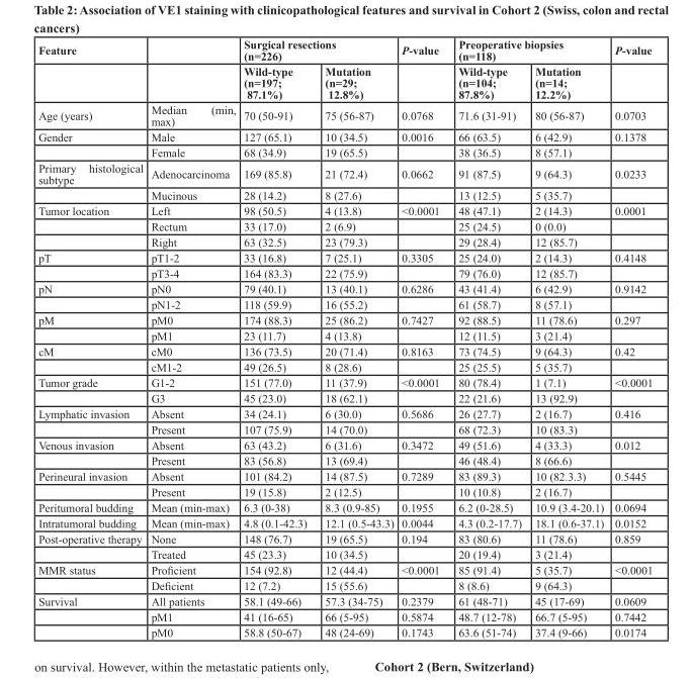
<table><thead><tr><td rowspan="2">Feature</td><td rowspan="2"></td><td colspan="2">Surgical resections (n=226)</td><td rowspan="2">P-value</td><td colspan="2">Preoperative biopsies (n=118)</td><td rowspan="2">P-value</td></tr><tr><td>Wild-type (n=197; 87.1%)</td><td>Mutation (n=29; 12.8%)</td><td>Wild-type (n=104; 87.8%)</td><td>Mutation (n=14; 12.2%)</td></tr></thead><tbody><tr><td>Age (years)</td><td>Median (min, max)</td><td>70 (50-91)</td><td>75 (56-87)</td><td>0.0768</td><td>71.6 (31-91)</td><td>80 (56-87)</td><td>0.0703</td></tr><tr><td rowspan="2">Gender</td><td>Male</td><td>127 (65.1)</td><td>10 (34.5)</td><td>0.0016</td><td>66 (63.5)</td><td>6 (42.9)</td><td>0.1378</td></tr><tr><td>Female</td><td>68 (34.9)</td><td>19 (65.5)</td><td></td><td>38 (36.5)</td><td>8 (57.1)</td><td></td></tr><tr><td rowspan="2">Primary histological subtype</td><td>Adenocarcinoma</td><td>169 (85.8)</td><td>21 (72.4)</td><td>0.0662</td><td>91 (87.5)</td><td>9 (64.3)</td><td>0.0233</td></tr><tr><td>Mucinous</td><td>28 (14.2)</td><td>8 (27.6)</td><td></td><td>13 (12.5)</td><td>5 (35.7)</td><td></td></tr><tr><td rowspan="3">Tumor location</td><td>Left</td><td>98 (50.5)</td><td>4 (13.8)</td><td>&lt;0.0001</td><td>48 (47.1)</td><td>2 (14.3)</td><td>0.0001</td></tr><tr><td>Rectum</td><td>33 (17.0)</td><td>2 (6.9)</td><td></td><td>25 (24.5)</td><td>0 (0.0)</td><td></td></tr><tr><td>Right</td><td>63 (32.5)</td><td>23 (79.3)</td><td></td><td>29 (28.4)</td><td>12 (85.7)</td><td></td></tr><tr><td rowspan="2">pT</td><td>pT1-2</td><td>33 (16.8)</td><td>7 (25.1)</td><td>0.3305</td><td>25 (24.0)</td><td>2 (14.3)</td><td>0.4148</td></tr><tr><td>pT3-4</td><td>164 (83.3)</td><td>22 (75.9)</td><td></td><td>79 (76.0)</td><td>12 (85.7)</td><td></td></tr><tr><td rowspan="2">pN</td><td>pN0</td><td>79 (40.1)</td><td>13 (40.1)</td><td>0.6286</td><td>43 (41.4)</td><td>6 (42.9)</td><td>0.9142</td></tr><tr><td>pN1-2</td><td>118 (59.9)</td><td>16 (55.2)</td><td></td><td>61 (58.7)</td><td>8 (57.1)</td><td></td></tr><tr><td rowspan="2">pM</td><td>pM0</td><td>174 (88.3)</td><td>25 (86.2)</td><td>0.7427</td><td>92 (88.5)</td><td>11 (78.6)</td><td>0.297</td></tr><tr><td>pM1</td><td>23 (11.7)</td><td>4 (13.8)</td><td></td><td>12 (11.5)</td><td>3 (21.4)</td><td></td></tr><tr><td rowspan="2">cM</td><td>cM0</td><td>136 (73.5)</td><td>20 (71.4)</td><td>0.8163</td><td>73 (74.5)</td><td>9 (64.3)</td><td>0.42</td></tr><tr><td>cM1-2</td><td>49 (26.5)</td><td>8 (28.6)</td><td></td><td>25 (25.5)</td><td>5 (35.7)</td><td></td></tr><tr><td rowspan="2">Tumor grade</td><td>G1-2</td><td>151 (77.0)</td><td>11 (37.9)</td><td>&lt;0.0001</td><td>80 (78.4)</td><td>1 (7.1)</td><td>&lt;0.0001</td></tr><tr><td>G3</td><td>45 (23.0)</td><td>18 (62.1)</td><td></td><td>22 (21.6)</td><td>13 (92.9)</td><td></td></tr><tr><td rowspan="2">Lymphatic invasion</td><td>Absent</td><td>34 (24.1)</td><td>6 (30.0)</td><td>0.5686</td><td>26 (27.7)</td><td>2 (16.7)</td><td>0.416</td></tr><tr><td>Present</td><td>107 (75.9)</td><td>14 (70.0)</td><td></td><td>68 (72.3)</td><td>10 (83.3)</td><td></td></tr><tr><td rowspan="2">Venous invasion</td><td>Absent</td><td>63 (43.2)</td><td>6 (31.6)</td><td>0.3472</td><td>49 (51.6)</td><td>4 (33.3)</td><td>0.012</td></tr><tr><td>Present</td><td>83 (56.8)</td><td>13 (69.4)</td><td></td><td>46 (48.4)</td><td>8 (66.6)</td><td></td></tr><tr><td rowspan="2">Perineural invasion</td><td>Absent</td><td>101 (84.2)</td><td>14 (87.5)</td><td>0.7289</td><td>83 (89.3)</td><td>10 (82.3.3)</td><td>0.5445</td></tr><tr><td>Present</td><td>19 (15.8)</td><td>2 (12.5)</td><td></td><td>10 (10.8)</td><td>2 (16.7)</td><td></td></tr><tr><td>Peritumoral budding</td><td>Mean (min-max)</td><td>6.3 (0-38)</td><td>8.3 (0.9-85)</td><td>0.1955</td><td>6.2 (0-28.5)</td><td>10.9 (3.4-20.1)</td><td>0.0694</td></tr><tr><td>Intratumoral budding</td><td>Mean (min-max)</td><td>4.8 (0.1-42.3)</td><td>12.1 (0.5-43.3)</td><td>0.0044</td><td>4.3 (0.2-17.7)</td><td>18.1 (0.6-37.1)</td><td>0.0152</td></tr><tr><td rowspan="2">Post-operative therapy</td><td>None</td><td>148 (76.7)</td><td>19 (65.5)</td><td>0.194</td><td>83 (80.6)</td><td>11 (78.6)</td><td>0.859</td></tr><tr><td>Treated</td><td>45 (23.3)</td><td>10 (34.5)</td><td></td><td>20 (19.4)</td><td>3 (21.4)</td><td></td></tr><tr><td rowspan="2">MMR status</td><td>Proficient</td><td>154 (92.8)</td><td>12 (44.4)</td><td>&lt;0.0001</td><td>85 (91.4)</td><td>5 (35.7)</td><td>&lt;0.0001</td></tr><tr><td>Deficient</td><td>12 (7.2)</td><td>15 (55.6)</td><td></td><td>8 (8.6)</td><td>9 (64.3)</td><td></td></tr><tr><td rowspan="3">Survival</td><td>All patients</td><td>58.1 (49-66)</td><td>57.3 (34-75)</td><td>0.2379</td><td>61 (48-71)</td><td>45 (17-69)</td><td>0.0609</td></tr><tr><td>pM1</td><td>41 (16-65)</td><td>66 (5-95)</td><td>0.5874</td><td>48.7 (12-78)</td><td>66.7 (5-95)</td><td>0.7442</td></tr><tr><td>pM0</td><td>58.8 (50-67)</td><td>48 (24-69)</td><td>0.1743</td><td>63.6 (51-74)</td><td>37.4 (9-66)</td><td>0.0174</td></tr></tbody></table>